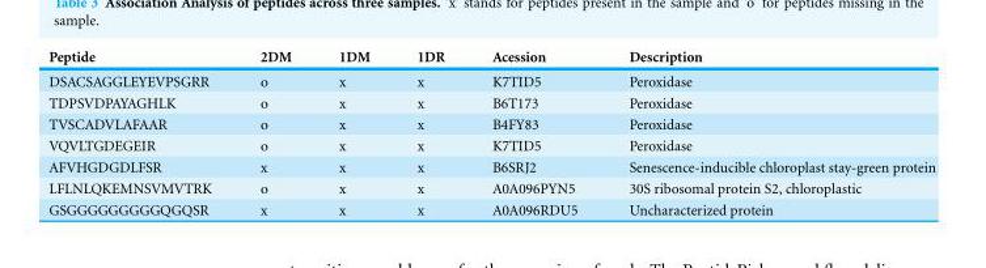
<table><thead><tr><td>Peptide</td><td>2DM</td><td>1DM</td><td>1DR</td><td>Acession</td><td>Description</td></tr></thead><tbody><tr><td>DSACSAGGLEYEVPSGRR</td><td>o</td><td>x</td><td>x</td><td>K7TID5</td><td>Peroxidase</td></tr><tr><td>TDPSVDPAYAGHLK</td><td>o</td><td>x</td><td>x</td><td>B6T173</td><td>Peroxidase</td></tr><tr><td>TVSCADVLAFAAR</td><td>o</td><td>x</td><td>x</td><td>B4FY83</td><td>Peroxidase</td></tr><tr><td>VQVLTGDEGEIR</td><td>o</td><td>x</td><td>x</td><td>K7TID5</td><td>Peroxidase</td></tr><tr><td>AFVHGDGDLFSR</td><td>x</td><td>x</td><td>x</td><td>B6SRJ2</td><td>Senescence-inducible chloroplast stay-green protein</td></tr><tr><td>LFLNLQKEMNSVMVTRK</td><td>o</td><td>x</td><td>x</td><td>A0A096PYN5</td><td>30S ribosomal protein S2, chloroplastic</td></tr><tr><td>GSGGGGGGGGGQGQSR</td><td>x</td><td>x</td><td>x</td><td>A0A096RDU5</td><td>Uncharacterized protein</td></tr></tbody></table>